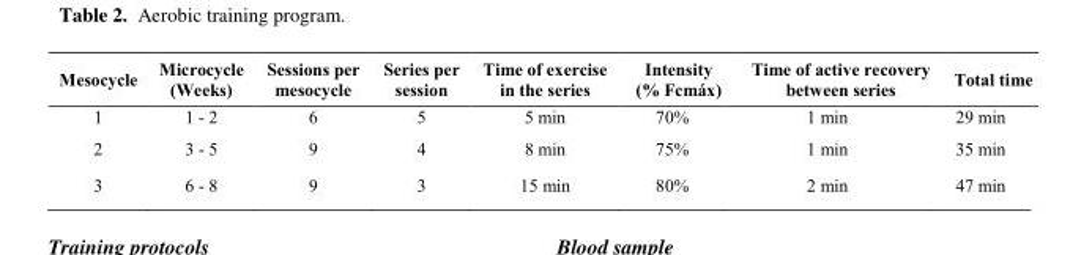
<table><thead><tr><td>Mesocycle</td><td>Microcycle (Weeks)</td><td>Sessions per mesocycle</td><td>Series per session</td><td>Time of exercise in the series</td><td>Intensity (% Fcmáx)</td><td>Time of active recovery between series</td><td>Total time</td></tr></thead><tbody><tr><td>1</td><td>1 - 2</td><td>6</td><td>5</td><td>5 min</td><td>70%</td><td>1 min</td><td>29 min</td></tr><tr><td>2</td><td>3 - 5</td><td>9</td><td>4</td><td>8 min</td><td>75%</td><td>1 min</td><td>35 min</td></tr><tr><td>3</td><td>6 - 8</td><td>9</td><td>3</td><td>15 min</td><td>80%</td><td>2 min</td><td>47 min</td></tr></tbody></table>